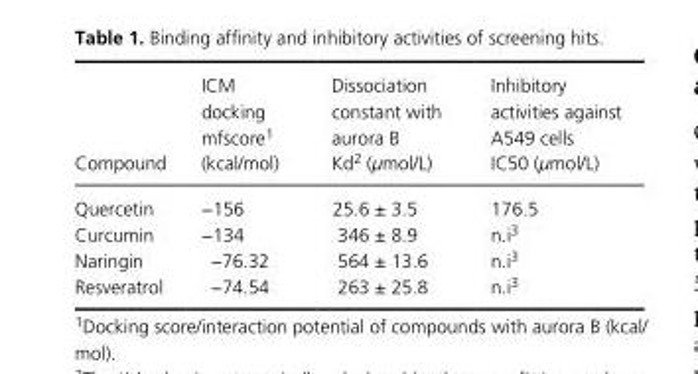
<table><thead><tr><td rowspan="2">Compound</td><td rowspan="2">ICM docking mfscore1 (kcal/mol)</td><td rowspan="2">Dissociation constant with aurora B Kd2 (μmol/L)</td><td rowspan="2">Inhibitory activities against A549 cells IC50 (μmol/L)</td></tr><tr></tr></thead><tbody><tr><td>Quercetin</td><td>−156</td><td>25.6 ± 3.5</td><td>176.5</td></tr><tr><td>Curcumin</td><td>−134</td><td>346 ± 8.9</td><td>n.i3</td></tr><tr><td>Naringin</td><td>−76.32</td><td>564 ± 13.6</td><td>n.i3</td></tr><tr><td>Resveratrol</td><td>−74.54</td><td>263 ± 25.8</td><td>n.i3</td></tr></tbody></table>